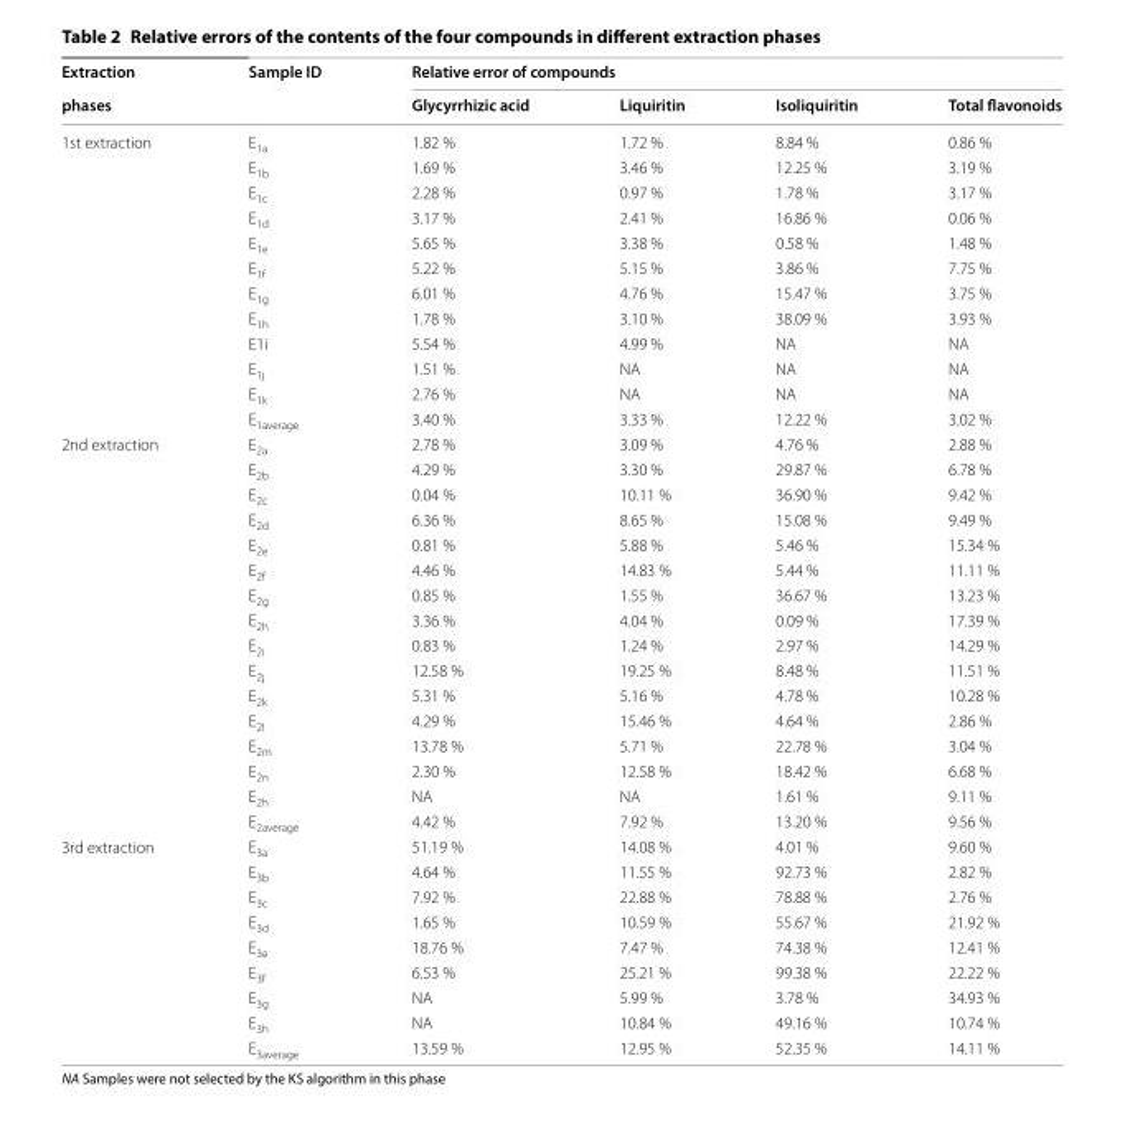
<table><thead><tr><td rowspan="2">Extraction phases</td><td rowspan="2">Sample ID</td><td colspan="4">Relative error of compounds</td></tr><tr><td>Glycyrrhizic acid</td><td>Liquiritin</td><td>Isoliquiritin</td><td>Total flavonoids</td></tr></thead><tbody><tr><td rowspan="12">1st extraction</td><td>E<sub>1a</sub></td><td>1.82 %</td><td>1.72 %</td><td>8.84 %</td><td>0.86 %</td></tr><tr><td>E<sub>1b</sub></td><td>1.69 %</td><td>3.46 %</td><td>12.25 %</td><td>3.19 %</td></tr><tr><td>E<sub>1c</sub></td><td>2.28 %</td><td>0.97 %</td><td>1.78 %</td><td>3.17 %</td></tr><tr><td>E<sub>1d</sub></td><td>3.17 %</td><td>2.41 %</td><td>16.86 %</td><td>0.06 %</td></tr><tr><td>E<sub>1e</sub></td><td>5.65 %</td><td>3.38 %</td><td>0.58 %</td><td>1.48 %</td></tr><tr><td>E<sub>1f</sub></td><td>5.22 %</td><td>5.15 %</td><td>3.86 %</td><td>7.75 %</td></tr><tr><td>E<sub>1g</sub></td><td>6.01 %</td><td>4.76 %</td><td>15.47 %</td><td>3.75 %</td></tr><tr><td>E<sub>1h</sub></td><td>1.78 %</td><td>3.10 %</td><td>38.09 %</td><td>3.93 %</td></tr><tr><td>E1i</td><td>5.54 %</td><td>4.99 %</td><td>NA</td><td>NA</td></tr><tr><td>E<sub>1j</sub></td><td>1.51 %</td><td>NA</td><td>NA</td><td>NA</td></tr><tr><td>E<sub>1k</sub></td><td>2.76 %</td><td>NA</td><td>NA</td><td>NA</td></tr><tr><td>E<sub>1average</sub></td><td>3.40 %</td><td>3.33 %</td><td>12.22 %</td><td>3.02 %</td></tr><tr><td rowspan="16">2nd extraction</td><td>E<sub>2a</sub></td><td>2.78 %</td><td>3.09 %</td><td>4.76 %</td><td>2.88 %</td></tr><tr><td>E<sub>2b</sub></td><td>4.29 %</td><td>3.30 %</td><td>29.87 %</td><td>6.78 %</td></tr><tr><td>E<sub>2c</sub></td><td>0.04 %</td><td>10.11 %</td><td>36.90 %</td><td>9.42 %</td></tr><tr><td>E<sub>2d</sub></td><td>6.36 %</td><td>8.65 %</td><td>15.08 %</td><td>9.49 %</td></tr><tr><td>E<sub>2e</sub></td><td>0.81 %</td><td>5.88 %</td><td>5.46 %</td><td>15.34 %</td></tr><tr><td>E<sub>2f</sub></td><td>4.46 %</td><td>14.83 %</td><td>5.44 %</td><td>11.11 %</td></tr><tr><td>E<sub>2g</sub></td><td>0.85 %</td><td>1.55 %</td><td>36.67 %</td><td>13.23 %</td></tr><tr><td>E<sub>2h</sub></td><td>3.36 %</td><td>4.04 %</td><td>0.09 %</td><td>17.39 %</td></tr><tr><td>E<sub>2i</sub></td><td>0.83 %</td><td>1.24 %</td><td>2.97 %</td><td>14.29 %</td></tr><tr><td>E<sub>2j</sub></td><td>12.58 %</td><td>19.25 %</td><td>8.48 %</td><td>11.51 %</td></tr><tr><td>E<sub>2k</sub></td><td>5.31 %</td><td>5.16 %</td><td>4.78 %</td><td>10.28 %</td></tr><tr><td>E<sub>2l</sub></td><td>4.29 %</td><td>15.46 %</td><td>4.64 %</td><td>2.86 %</td></tr><tr><td>E<sub>2m</sub></td><td>13.78 %</td><td>5.71 %</td><td>22.78 %</td><td>3.04 %</td></tr><tr><td>E<sub>2n</sub></td><td>2.30 %</td><td>12.58 %</td><td>18.42 %</td><td>6.68 %</td></tr><tr><td>E<sub>2h</sub></td><td>NA</td><td>NA</td><td>1.61 %</td><td>9.11 %</td></tr><tr><td>E<sub>2average</sub></td><td>4.42 %</td><td>7.92 %</td><td>13.20 %</td><td>9.56 %</td></tr><tr><td rowspan="9">3rd extraction</td><td>E<sub>3a</sub></td><td>51.19 %</td><td>14.08 %</td><td>4.01 %</td><td>9.60 %</td></tr><tr><td>E<sub>3b</sub></td><td>4.64 %</td><td>11.55 %</td><td>92.73 %</td><td>2.82 %</td></tr><tr><td>E<sub>3c</sub></td><td>7.92 %</td><td>22.88 %</td><td>78.88 %</td><td>2.76 %</td></tr><tr><td>E<sub>3d</sub></td><td>1.65 %</td><td>10.59 %</td><td>55.67 %</td><td>21.92 %</td></tr><tr><td>E<sub>3e</sub></td><td>18.76 %</td><td>7.47 %</td><td>74.38 %</td><td>12.41 %</td></tr><tr><td>E<sub>3f</sub></td><td>6.53 %</td><td>25.21 %</td><td>99.38 %</td><td>22.22 %</td></tr><tr><td>E<sub>3g</sub></td><td>NA</td><td>5.99 %</td><td>3.78 %</td><td>34.93 %</td></tr><tr><td>E<sub>3h</sub></td><td>NA</td><td>10.84 %</td><td>49.16 %</td><td>10.74 %</td></tr><tr><td>E<sub>3average</sub></td><td>13.59 %</td><td>12.95 %</td><td>52.35 %</td><td>14.11 %</td></tr></tbody></table>